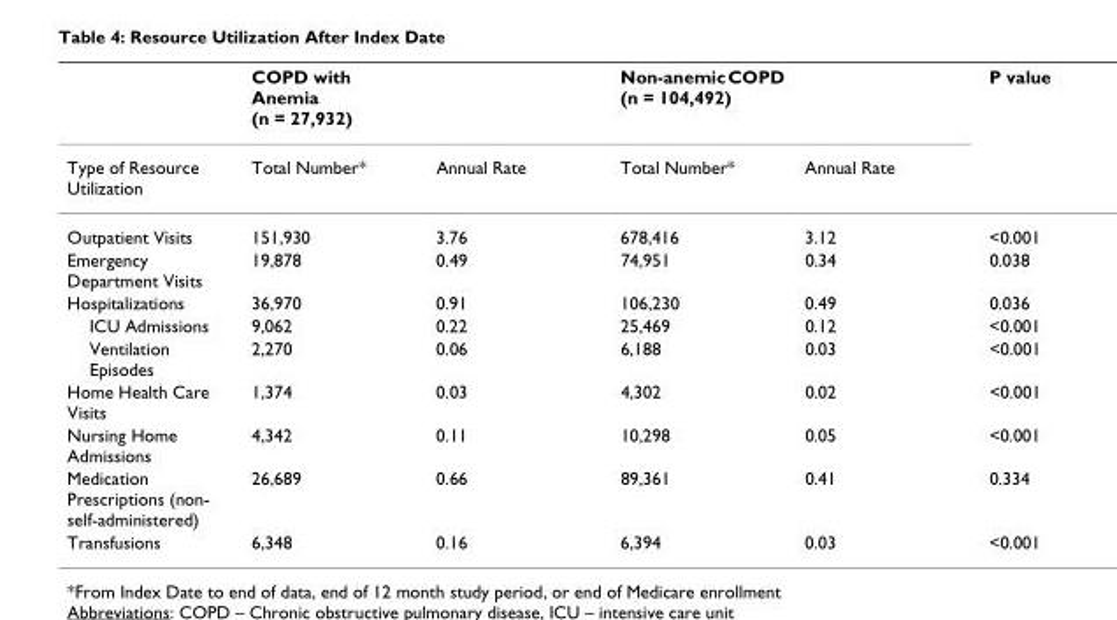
<table><thead><tr><td rowspan="2">Type of Resource Utilization</td><td rowspan="2">COPD with Anemia (n = 27,932) Total Number*</td><td rowspan="2">Annual Rate</td><td rowspan="2">Non-anemic COPD (n = 104,492) Total Number*</td><td rowspan="2">Annual Rate</td><td rowspan="2">P value</td></tr><tr></tr></thead><tbody><tr><td>Outpatient Visits</td><td>151,930</td><td>3.76</td><td>678,416</td><td>3.12</td><td>&lt;0.001</td></tr><tr><td>Emergency Department Visits</td><td>19,878</td><td>0.49</td><td>74,951</td><td>0.34</td><td>0.038</td></tr><tr><td>Hospitalizations</td><td>36,970</td><td>0.91</td><td>106,230</td><td>0.49</td><td>0.036</td></tr><tr><td>ICU Admissions</td><td>9,062</td><td>0.22</td><td>25,469</td><td>0.12</td><td>&lt;0.001</td></tr><tr><td>Ventilation Episodes</td><td>2,270</td><td>0.06</td><td>6,188</td><td>0.03</td><td>&lt;0.001</td></tr><tr><td>Home Health Care Visits</td><td>1,374</td><td>0.03</td><td>4,302</td><td>0.02</td><td>&lt;0.001</td></tr><tr><td>Nursing Home Admissions</td><td>4,342</td><td>0.11</td><td>10,298</td><td>0.05</td><td>&lt;0.001</td></tr><tr><td>Medication Prescriptions (non- self-administered)</td><td>26,689</td><td>0.66</td><td>89,361</td><td>0.41</td><td>0.334</td></tr><tr><td>Transfusions</td><td>6,348</td><td>0.16</td><td>6,394</td><td>0.03</td><td>&lt;0.001</td></tr></tbody></table>